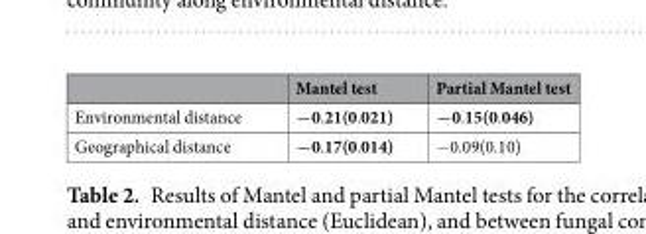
<table><thead><tr><td></td><td>Mantel test</td><td>Partial Mantel test</td></tr></thead><tbody><tr><td>Environmental distance</td><td>−0.21(0.021)</td><td>−0.15(0.046)</td></tr><tr><td>Geographical distance</td><td>−0.17(0.014)</td><td>−0.09(0.10)</td></tr></tbody></table>